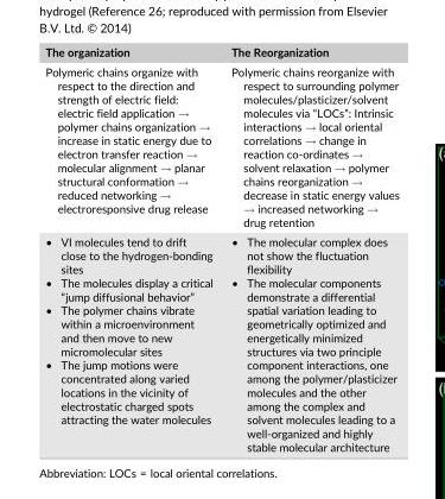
<table><thead><tr><td>The organization</td><td>The Reorganization</td></tr></thead><tbody><tr><td>Polymeric chains organize with respect to the direction and strength of electric field: electric field application → polymer chains organization → increase in static energy due to electron transfer reaction → molecular alignment → planar structural conformation → reduced networking → electroresponsive drug release</td><td>Polymeric chains reorganize with respect to surrounding polymer molecules/plasticizer/solvent molecules via “LOCs”: Intrinsic interactions → local oriental correlations → change in reaction co-ordinates → solvent relaxation → polymer chains reorganization → decrease in static energy values → increased networking → drug retention</td></tr><tr><td>• VI molecules tend to drift close to the hydrogen-bonding sites • The molecules display a critical “jump diffusional behavior” • The polymer chains vibrate within a microenvironment and then move to new micromolecular sites • The jump motions were concentrated along varied locations in the vicinity of electrostatic charged spots attracting the water molecules</td><td>• The molecular complex does not show the fluctuation flexibility • The molecular components demonstrate a differential spatial variation leading to geometrically optimized and energetically minimized structures via two principle component interactions, one among the polymer/plasticizer molecules and the other among the complex and solvent molecules leading to a well-organized and highly stable molecular architecture</td></tr></tbody></table>